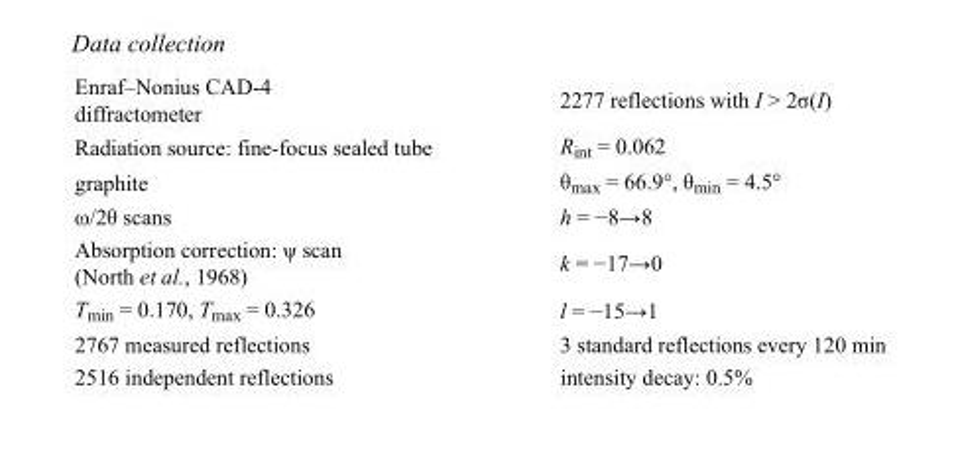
<table><tbody><tr><td>Enraf–Nonius CAD-4 diffractometer</td><td>2277 reflections with I &gt; 2σ(I)</td></tr><tr><td>Radiation source: fine-focus sealed tube</td><td>R<sub>int</sub> = 0.062</td></tr><tr><td>graphite</td><td>θ<sub>max</sub> = 66.9°, θ<sub>min</sub> = 4.5°</td></tr><tr><td>ω/2θ scans</td><td>h = −8→8</td></tr><tr><td>Absorption correction: ψ scan (North et al., 1968)</td><td>k = −17→0</td></tr><tr><td>T<sub>min</sub> = 0.170, T<sub>max</sub> = 0.326</td><td>l = −15→1</td></tr><tr><td>2767 measured reflections</td><td>3 standard reflections every 120 min</td></tr><tr><td>2516 independent reflections</td><td>intensity decay: 0.5%</td></tr></tbody></table>